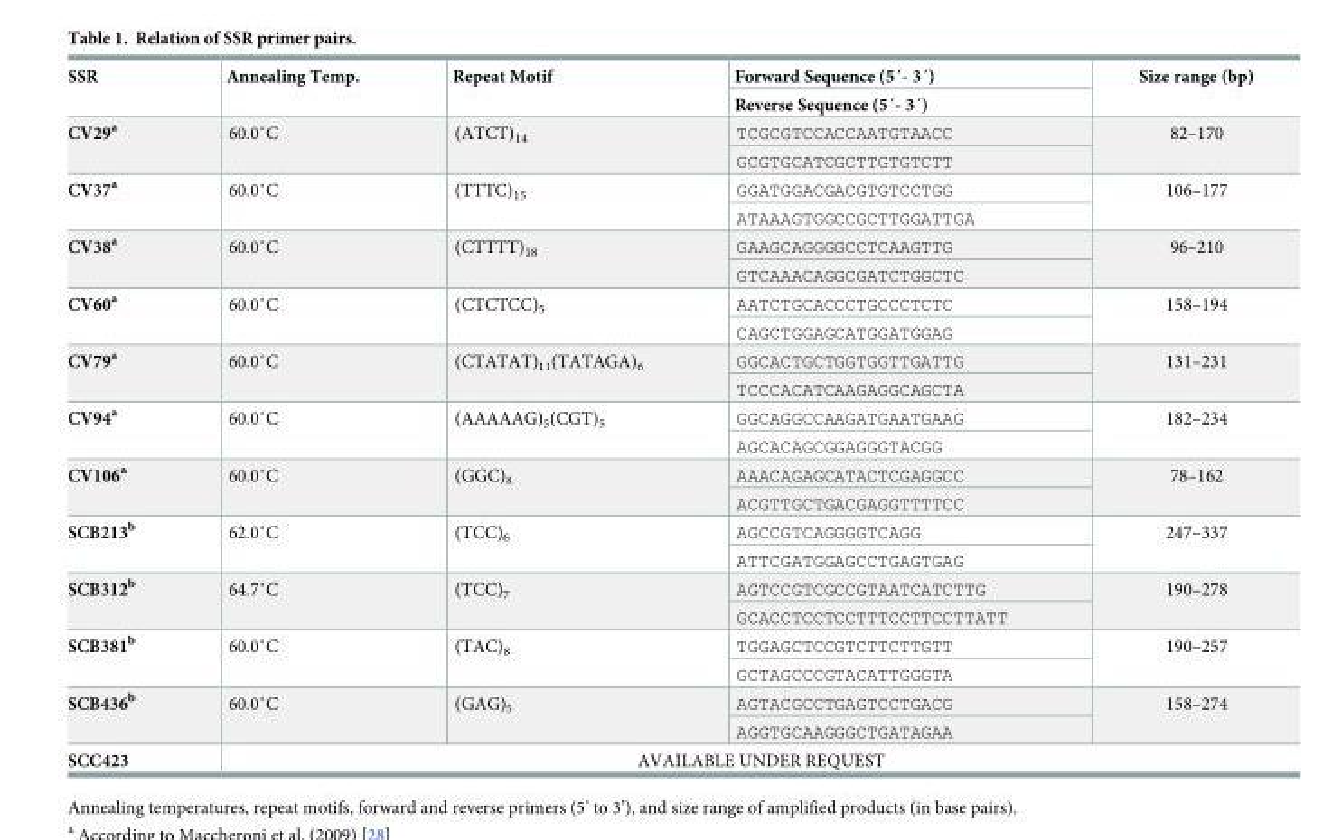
<table><thead><tr><td rowspan="2">SSR</td><td rowspan="2">Annealing Temp.</td><td rowspan="2">Repeat Motif</td><td rowspan="2">Forward Sequence (5´- 3´) Reverse Sequence (5´- 3´)</td><td rowspan="2">Size range (bp)</td></tr><tr></tr></thead><tbody><tr><td rowspan="2">CV29<sup>a</sup></td><td rowspan="2">60.0˚C</td><td rowspan="2">(ATCT)<sub>14</sub></td><td>TCGCGTCCACCAATGTAACC</td><td rowspan="2">82–170</td></tr><tr><td>GCGTGCATCGCTTGTGTCTT</td></tr><tr><td rowspan="2">CV37<sup>a</sup></td><td rowspan="2">60.0˚C</td><td rowspan="2">(TTTC)<sub>15</sub></td><td>GGATGGACGACGTGTCCTGG</td><td rowspan="2">106–177</td></tr><tr><td>ATAAAGTGGCCGCTTGGATTGA</td></tr><tr><td rowspan="2">CV38<sup>a</sup></td><td rowspan="2">60.0˚C</td><td rowspan="2">(CTTTT)<sub>18</sub></td><td>GAAGCAGGGGCCTCAAGTTG</td><td rowspan="2">96–210</td></tr><tr><td>GTCAAACAGGCGATCTGGCTC</td></tr><tr><td rowspan="2">CV60<sup>a</sup></td><td rowspan="2">60.0˚C</td><td rowspan="2">(CTCTCC)<sub>5</sub></td><td>AATCTGCACCCTGCCCTCTC</td><td rowspan="2">158–194</td></tr><tr><td>CAGCTGGAGCATGGATGGAG</td></tr><tr><td rowspan="2">CV79<sup>a</sup></td><td rowspan="2">60.0˚C</td><td rowspan="2">(CTATAT)<sub>11</sub>(TATAGA)<sub>6</sub></td><td>GGCACTGCTGGTGGTTGATTG</td><td rowspan="2">131–231</td></tr><tr><td>TCCCACATCAAGAGGCAGCTA</td></tr><tr><td rowspan="2">CV94<sup>a</sup></td><td rowspan="2">60.0˚C</td><td rowspan="2">(AAAAAG)<sub>5</sub>(CGT)<sub>5</sub></td><td>GGCAGGCCAAGATGAATGAAG</td><td rowspan="2">182–234</td></tr><tr><td>AGCACAGCGGAGGGTACGG</td></tr><tr><td rowspan="2">CV106<sup>a</sup></td><td rowspan="2">60.0˚C</td><td rowspan="2">(GGC)<sub>8</sub></td><td>AAACAGAGCATACTCGAGGCC</td><td rowspan="2">78–162</td></tr><tr><td>ACGTTGCTGACGAGGTTTTCC</td></tr><tr><td rowspan="2">SCB213<sup>b</sup></td><td rowspan="2">62.0˚C</td><td rowspan="2">(TCC)<sub>6</sub></td><td>AGCCGTCAGGGGTCAGG</td><td rowspan="2">247–337</td></tr><tr><td>ATTCGATGGAGCCTGAGTGAG</td></tr><tr><td rowspan="2">SCB312<sup>b</sup></td><td rowspan="2">64.7˚C</td><td rowspan="2">(TCC)<sub>7</sub></td><td>AGTCCGTCGCCGTAATCATCTTG</td><td rowspan="2">190–278</td></tr><tr><td>GCACCTCCTCCTTTCCTTCCTTATT</td></tr><tr><td rowspan="2">SCB381<sup>b</sup></td><td rowspan="2">60.0˚C</td><td rowspan="2">(TAC)<sub>8</sub></td><td>TGGAGCTCCGTCTTCTTGTT</td><td rowspan="2">190–257</td></tr><tr><td>GCTAGCCCGTACATTGGGTA</td></tr><tr><td rowspan="2">SCB436<sup>b</sup></td><td rowspan="2">60.0˚C</td><td rowspan="2">(GAG)<sub>5</sub></td><td>AGTACGCCTGAGTCCTGACG</td><td rowspan="2">158–274</td></tr><tr><td>AGGTGCAAGGGCTGATAGAA</td></tr><tr><td>SCC423</td><td colspan="4">AVAILABLE UNDER REQUEST</td></tr></tbody></table>